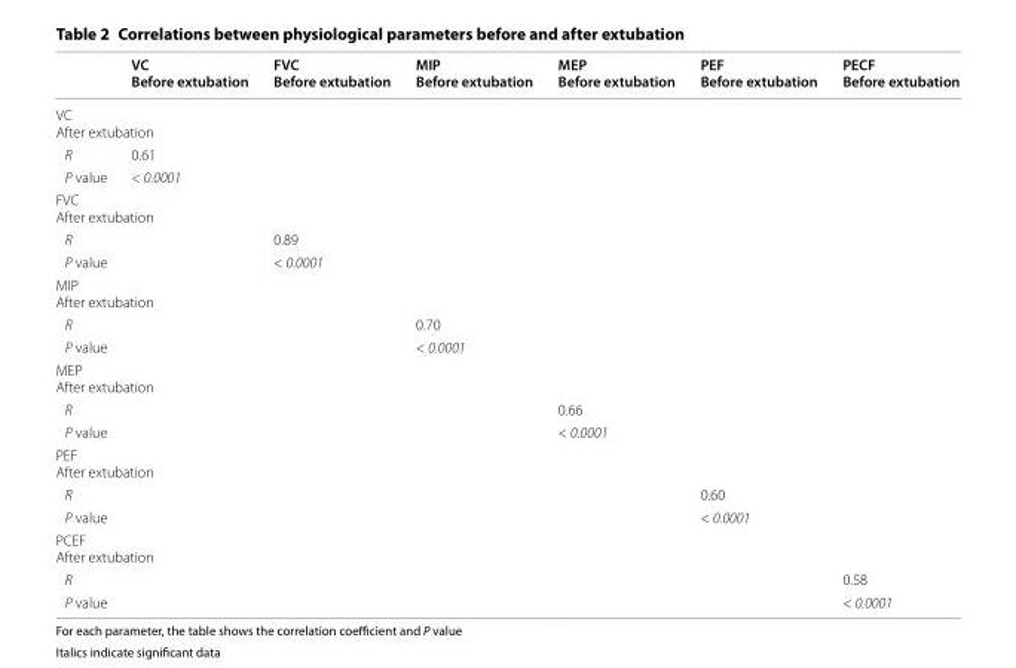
<table><thead><tr><td></td><td>VC Before extubation</td><td>FVC Before extubation</td><td>MIP Before extubation</td><td>MEP Before extubation</td><td>PEF Before extubation</td><td>PECF Before extubation</td></tr></thead><tbody><tr><td colspan="7">VC After extubation</td></tr><tr><td>R</td><td>0.61</td><td></td><td></td><td></td><td></td><td></td></tr><tr><td>P value</td><td>&lt; 0.0001</td><td></td><td></td><td></td><td></td><td></td></tr><tr><td colspan="7">FVC After extubation</td></tr><tr><td>R</td><td></td><td>0.89</td><td></td><td></td><td></td><td></td></tr><tr><td>P value</td><td></td><td>&lt; 0.0001</td><td></td><td></td><td></td><td></td></tr><tr><td colspan="7">MIP After extubation</td></tr><tr><td>R</td><td></td><td></td><td>0.70</td><td></td><td></td><td></td></tr><tr><td>P value</td><td></td><td></td><td>&lt; 0.0001</td><td></td><td></td><td></td></tr><tr><td colspan="7">MEP After extubation</td></tr><tr><td>R</td><td></td><td></td><td></td><td>0.66</td><td></td><td></td></tr><tr><td>P value</td><td></td><td></td><td></td><td>&lt; 0.0001</td><td></td><td></td></tr><tr><td colspan="7">PEF After extubation</td></tr><tr><td>R</td><td></td><td></td><td></td><td></td><td>0.60</td><td></td></tr><tr><td>P value</td><td></td><td></td><td></td><td></td><td>&lt; 0.0001</td><td></td></tr><tr><td colspan="7">PCEF After extubation</td></tr><tr><td>R</td><td></td><td></td><td></td><td></td><td></td><td>0.58</td></tr><tr><td>P value</td><td></td><td></td><td></td><td></td><td></td><td>&lt; 0.0001</td></tr></tbody></table>